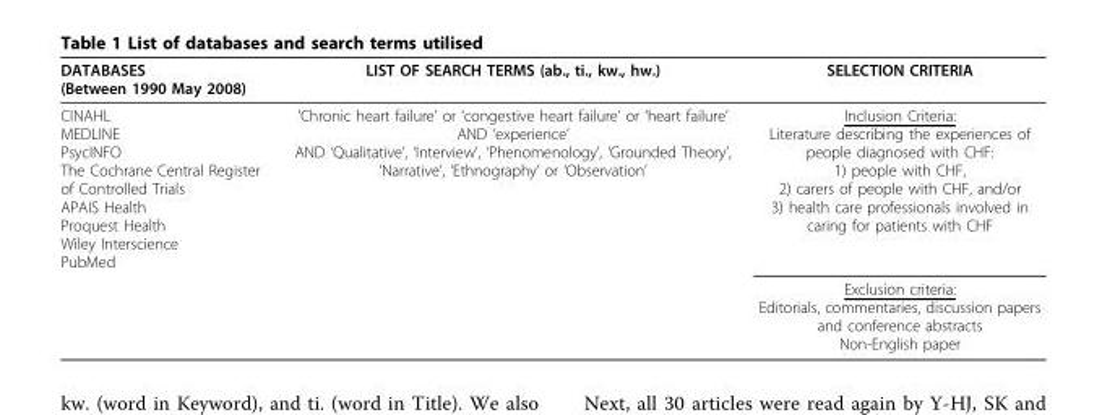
<table><thead><tr><td>DATABASES (Between 1990 May 2008)</td><td>LIST OF SEARCH TERMS (ab., ti., kw., hw.)</td><td>SELECTION CRITERIA</td></tr></thead><tbody><tr><td rowspan="2">CINAHL MEDLINE PsycINFO The Cochrane Central Register of Controlled Trials APAIS Health Proquest Health Wiley Interscience PubMed</td><td>’Chronic heart failure’ or ‘congestive heart failure’ or ‘heart failure’ AND ‘experience’ AND ‘Qualitative’, ‘Interview’, ‘Phenomenology’, ‘Grounded Theory’, ‘Narrative’, ‘Ethnography’ or ‘Observation’</td><td>Inclusion Criteria: Literature describing the experiences of people diagnosed with CHF: 1) people with CHF, 2) carers of people with CHF, and/or 3) health care professionals involved in caring for patients with CHF</td></tr><tr><td></td><td>Exclusion criteria: Editorials, commentaries, discussion papers and conference abstracts Non-English paper</td></tr></tbody></table>